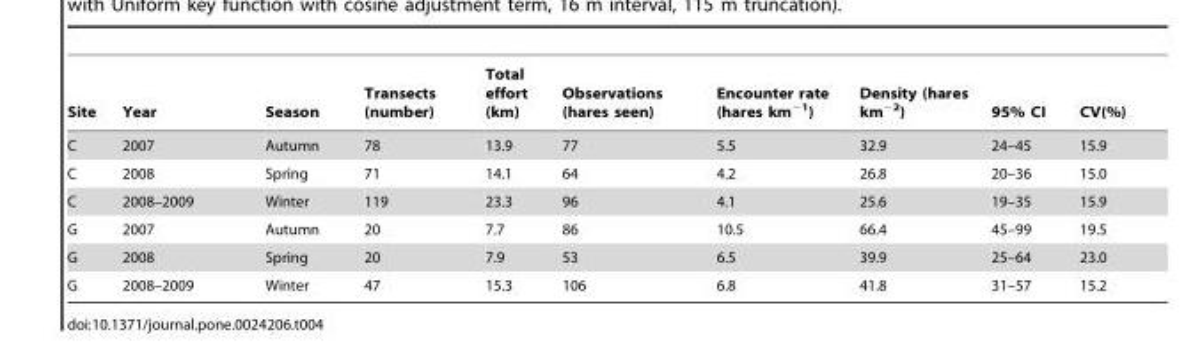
<table><thead><tr><td>Site</td><td>Year</td><td>Season</td><td>Transects (number)</td><td>Total effort (km)</td><td>Observations (hares seen)</td><td>Encounter rate (hares km<sup>−1</sup>)</td><td>Density (hares km<sup>−2</sup>)</td><td>95% CI</td><td>CV(%)</td></tr></thead><tbody><tr><td>C</td><td>2007</td><td>Autumn</td><td>78</td><td>13.9</td><td>77</td><td>5.5</td><td>32.9</td><td>24–45</td><td>15.9</td></tr><tr><td>C</td><td>2008</td><td>Spring</td><td>71</td><td>14.1</td><td>64</td><td>4.2</td><td>26.8</td><td>20–36</td><td>15.0</td></tr><tr><td>C</td><td>2008–2009</td><td>Winter</td><td>119</td><td>23.3</td><td>96</td><td>4.1</td><td>25.6</td><td>19–35</td><td>15.9</td></tr><tr><td>G</td><td>2007</td><td>Autumn</td><td>20</td><td>7.7</td><td>86</td><td>10.5</td><td>66.4</td><td>45–99</td><td>19.5</td></tr><tr><td>G</td><td>2008</td><td>Spring</td><td>20</td><td>7.9</td><td>53</td><td>6.5</td><td>39.9</td><td>25–64</td><td>23.0</td></tr><tr><td>G</td><td>2008–2009</td><td>Winter</td><td>47</td><td>15.3</td><td>106</td><td>6.8</td><td>41.8</td><td>31–57</td><td>15.2</td></tr></tbody></table>